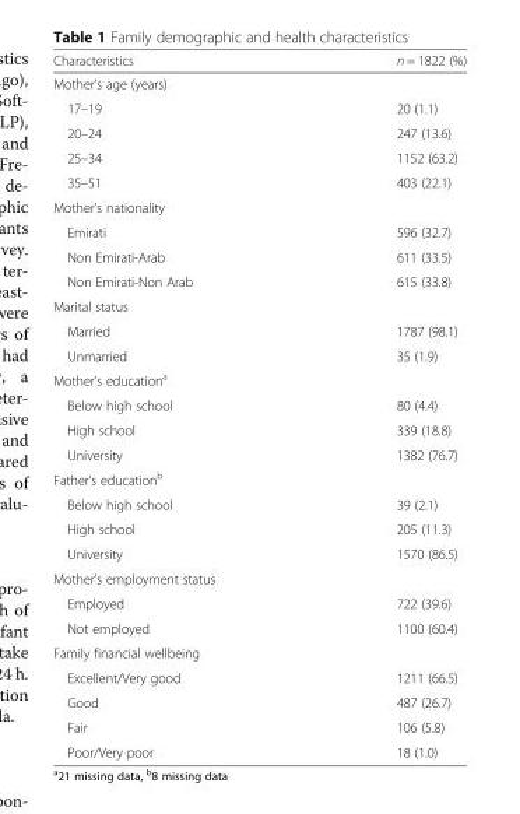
<table><thead><tr><td>Characteristics</td><td>n = 1822 (%)</td></tr></thead><tbody><tr><td colspan="2">Mother’s age (years)</td></tr><tr><td>17–19</td><td>20 (1.1)</td></tr><tr><td>20–24</td><td>247 (13.6)</td></tr><tr><td>25–34</td><td>1152 (63.2)</td></tr><tr><td>35–51</td><td>403 (22.1)</td></tr><tr><td colspan="2">Mother’s nationality</td></tr><tr><td>Emirati</td><td>596 (32.7)</td></tr><tr><td>Non Emirati-Arab</td><td>611 (33.5)</td></tr><tr><td>Non Emirati-Non Arab</td><td>615 (33.8)</td></tr><tr><td colspan="2">Marital status</td></tr><tr><td>Married</td><td>1787 (98.1)</td></tr><tr><td>Unmarried</td><td>35 (1.9)</td></tr><tr><td colspan="2">Mother’s education<sup>a</sup></td></tr><tr><td>Below high school</td><td>80 (4.4)</td></tr><tr><td>High school</td><td>339 (18.8)</td></tr><tr><td>University</td><td>1382 (76.7)</td></tr><tr><td colspan="2">Father’s education<sup>b</sup></td></tr><tr><td>Below high school</td><td>39 (2.1)</td></tr><tr><td>High school</td><td>205 (11.3)</td></tr><tr><td>University</td><td>1570 (86.5)</td></tr><tr><td colspan="2">Mother’s employment status</td></tr><tr><td>Employed</td><td>722 (39.6)</td></tr><tr><td>Not employed</td><td>1100 (60.4)</td></tr><tr><td colspan="2">Family financial wellbeing</td></tr><tr><td>Excellent/Very good</td><td>1211 (66.5)</td></tr><tr><td>Good</td><td>487 (26.7)</td></tr><tr><td>Fair</td><td>106 (5.8)</td></tr><tr><td>Poor/Very poor</td><td>18 (1.0)</td></tr></tbody></table>